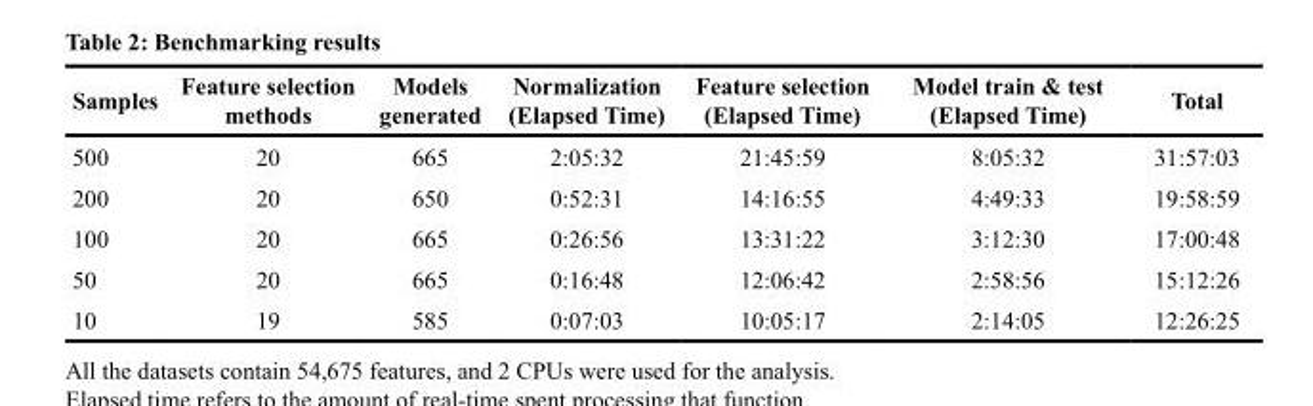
<table><thead><tr><td>Samples</td><td>Feature selection methods</td><td>Models generated</td><td>Normalization (Elapsed Time)</td><td>Feature selection (Elapsed Time)</td><td>Model train &amp; test (Elapsed Time)</td><td>Total</td></tr></thead><tbody><tr><td>500</td><td>20</td><td>665</td><td>2:05:32</td><td>21:45:59</td><td>8:05:32</td><td>31:57:03</td></tr><tr><td>200</td><td>20</td><td>650</td><td>0:52:31</td><td>14:16:55</td><td>4:49:33</td><td>19:58:59</td></tr><tr><td>100</td><td>20</td><td>665</td><td>0:26:56</td><td>13:31:22</td><td>3:12:30</td><td>17:00:48</td></tr><tr><td>50</td><td>20</td><td>665</td><td>0:16:48</td><td>12:06:42</td><td>2:58:56</td><td>15:12:26</td></tr><tr><td>10</td><td>19</td><td>585</td><td>0:07:03</td><td>10:05:17</td><td>2:14:05</td><td>12:26:25</td></tr></tbody></table>